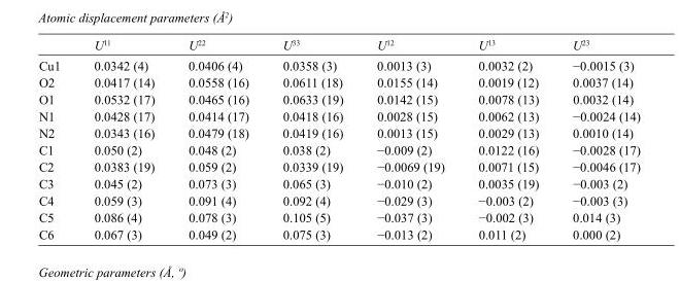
<table><thead><tr><td></td><td>U<sup>11</sup></td><td>U<sup>22</sup></td><td>U<sup>33</sup></td><td>U<sup>12</sup></td><td>U<sup>13</sup></td><td>U<sup>23</sup></td></tr></thead><tbody><tr><td>Cu1</td><td>0.0342 (4)</td><td>0.0406 (4)</td><td>0.0358 (3)</td><td>0.0013 (3)</td><td>0.0032 (2)</td><td>−0.0015 (3)</td></tr><tr><td>O2</td><td>0.0417 (14)</td><td>0.0558 (16)</td><td>0.0611 (18)</td><td>0.0155 (14)</td><td>0.0019 (12)</td><td>0.0037 (14)</td></tr><tr><td>O1</td><td>0.0532 (17)</td><td>0.0465 (16)</td><td>0.0633 (19)</td><td>0.0142 (15)</td><td>0.0078 (13)</td><td>0.0032 (14)</td></tr><tr><td>N1</td><td>0.0428 (17)</td><td>0.0414 (17)</td><td>0.0418 (16)</td><td>0.0028 (15)</td><td>0.0062 (13)</td><td>−0.0024 (14)</td></tr><tr><td>N2</td><td>0.0343 (16)</td><td>0.0479 (18)</td><td>0.0419 (16)</td><td>0.0013 (15)</td><td>0.0029 (13)</td><td>0.0010 (14)</td></tr><tr><td>C1</td><td>0.050 (2)</td><td>0.048 (2)</td><td>0.038 (2)</td><td>−0.009 (2)</td><td>0.0122 (16)</td><td>−0.0028 (17)</td></tr><tr><td>C2</td><td>0.0383 (19)</td><td>0.059 (2)</td><td>0.0339 (19)</td><td>−0.0069 (19)</td><td>0.0071 (15)</td><td>−0.0046 (17)</td></tr><tr><td>C3</td><td>0.045 (2)</td><td>0.073 (3)</td><td>0.065 (3)</td><td>−0.010 (2)</td><td>0.0035 (19)</td><td>−0.003 (2)</td></tr><tr><td>C4</td><td>0.059 (3)</td><td>0.091 (4)</td><td>0.092 (4)</td><td>−0.029 (3)</td><td>−0.003 (2)</td><td>−0.003 (3)</td></tr><tr><td>C5</td><td>0.086 (4)</td><td>0.078 (3)</td><td>0.105 (5)</td><td>−0.037 (3)</td><td>−0.002 (3)</td><td>0.014 (3)</td></tr><tr><td>C6</td><td>0.067 (3)</td><td>0.049 (2)</td><td>0.075 (3)</td><td>−0.013 (2)</td><td>0.011 (2)</td><td>0.000 (2)</td></tr></tbody></table>